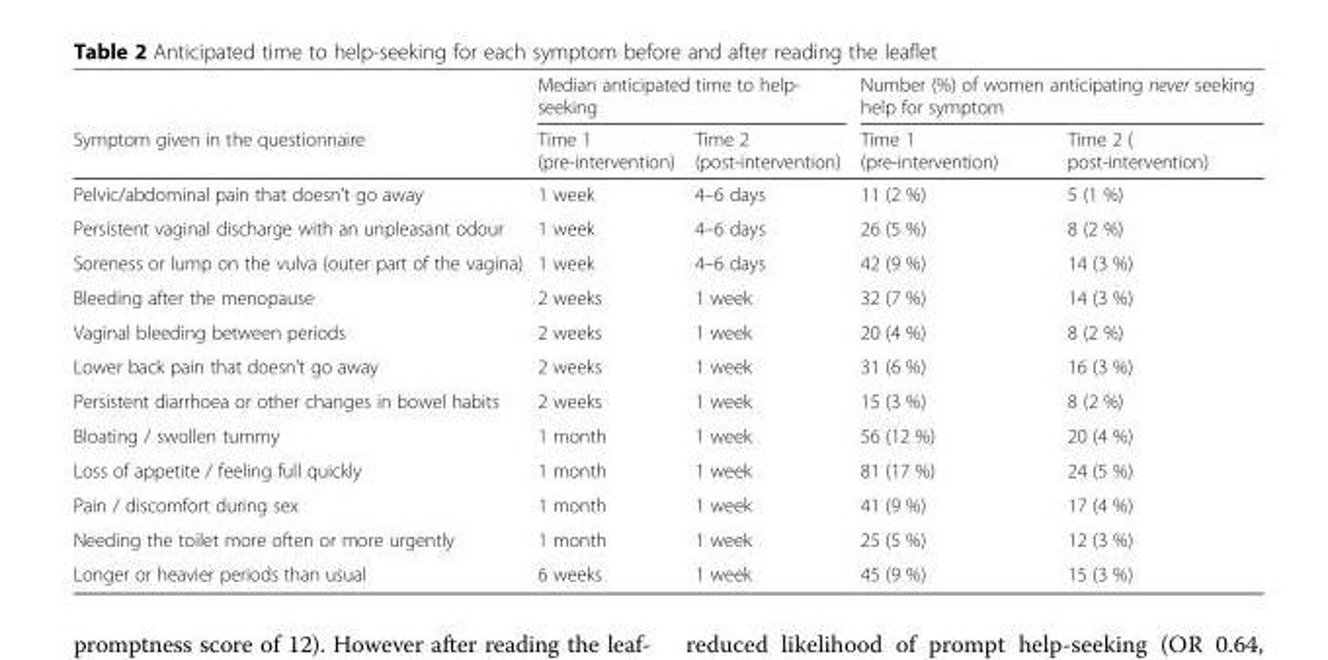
<table><thead><tr><td rowspan="2">Symptom given in the questionnaire</td><td colspan="2">Median anticipated time to help- seeking</td><td colspan="2">Number (%) of women anticipating never seeking help for symptom</td></tr><tr><td>Time 1 (pre-intervention)</td><td>Time 2 (post-intervention)</td><td>Time 1 (pre-intervention)</td><td>Time 2 ( post-intervention)</td></tr></thead><tbody><tr><td>Pelvic/abdominal pain that doesn’t go away</td><td>1 week</td><td>4–6 days</td><td>11 (2 %)</td><td>5 (1 %)</td></tr><tr><td>Persistent vaginal discharge with an unpleasant odour</td><td>1 week</td><td>4–6 days</td><td>26 (5 %)</td><td>8 (2 %)</td></tr><tr><td>Soreness or lump on the vulva (outer part of the vagina)</td><td>1 week</td><td>4–6 days</td><td>42 (9 %)</td><td>14 (3 %)</td></tr><tr><td>Bleeding after the menopause</td><td>2 weeks</td><td>1 week</td><td>32 (7 %)</td><td>14 (3 %)</td></tr><tr><td>Vaginal bleeding between periods</td><td>2 weeks</td><td>1 week</td><td>20 (4 %)</td><td>8 (2 %)</td></tr><tr><td>Lower back pain that doesn’t go away</td><td>2 weeks</td><td>1 week</td><td>31 (6 %)</td><td>16 (3 %)</td></tr><tr><td>Persistent diarrhoea or other changes in bowel habits</td><td>2 weeks</td><td>1 week</td><td>15 (3 %)</td><td>8 (2 %)</td></tr><tr><td>Bloating / swollen tummy</td><td>1 month</td><td>1 week</td><td>56 (12 %)</td><td>20 (4 %)</td></tr><tr><td>Loss of appetite / feeling full quickly</td><td>1 month</td><td>1 week</td><td>81 (17 %)</td><td>24 (5 %)</td></tr><tr><td>Pain / discomfort during sex</td><td>1 month</td><td>1 week</td><td>41 (9 %)</td><td>17 (4 %)</td></tr><tr><td>Needing the toilet more often or more urgently</td><td>1 month</td><td>1 week</td><td>25 (5 %)</td><td>12 (3 %)</td></tr><tr><td>Longer or heavier periods than usual</td><td>6 weeks</td><td>1 week</td><td>45 (9 %)</td><td>15 (3 %)</td></tr></tbody></table>